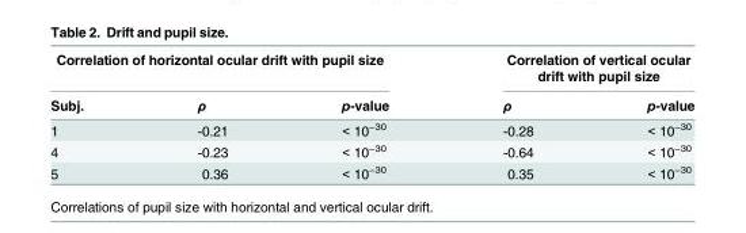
<table><thead><tr><td colspan="3">Correlation of horizontal ocular drift with pupil size</td><td colspan="2">Correlation of vertical ocular drift with pupil size</td></tr><tr><td>Subj.</td><td>ρ</td><td>p-value</td><td>ρ</td><td>p-value</td></tr></thead><tbody><tr><td>1</td><td>-0.21</td><td>&lt; 10<sup>−30</sup></td><td>-0.28</td><td>&lt; 10<sup>−30</sup></td></tr><tr><td>4</td><td>-0.23</td><td>&lt; 10<sup>−30</sup></td><td>-0.64</td><td>&lt; 10<sup>−30</sup></td></tr><tr><td>5</td><td>0.36</td><td>&lt; 10<sup>−30</sup></td><td>0.35</td><td>&lt; 10<sup>−30</sup></td></tr></tbody></table>